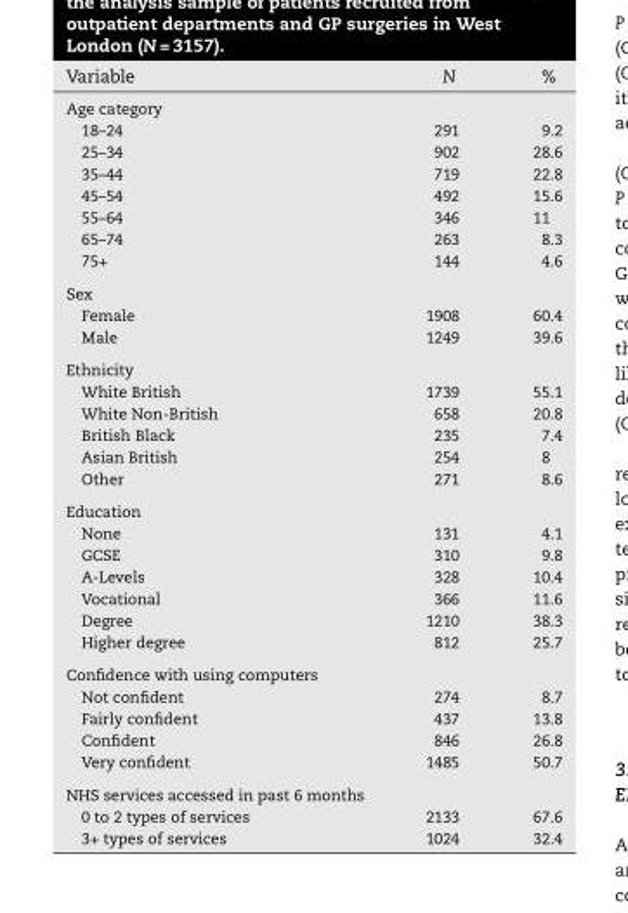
<table><thead><tr><td>Variable</td><td>N</td><td>%</td></tr></thead><tbody><tr><td colspan="3">Age category</td></tr><tr><td>18–24</td><td>291</td><td>9.2</td></tr><tr><td>25–34</td><td>902</td><td>28.6</td></tr><tr><td>35–44</td><td>719</td><td>22.8</td></tr><tr><td>45–54</td><td>492</td><td>15.6</td></tr><tr><td>55–64</td><td>346</td><td>11</td></tr><tr><td>65–74</td><td>263</td><td>8.3</td></tr><tr><td>75+</td><td>144</td><td>4.6</td></tr><tr><td colspan="3">Sex</td></tr><tr><td>Female</td><td>1908</td><td>60.4</td></tr><tr><td>Male</td><td>1249</td><td>39.6</td></tr><tr><td colspan="3">Ethnicity</td></tr><tr><td>White British</td><td>1739</td><td>55.1</td></tr><tr><td>White Non-British</td><td>658</td><td>20.8</td></tr><tr><td>British Black</td><td>235</td><td>7.4</td></tr><tr><td>Asian British</td><td>254</td><td>8</td></tr><tr><td>Other</td><td>271</td><td>8.6</td></tr><tr><td colspan="3">Education</td></tr><tr><td>None</td><td>131</td><td>4.1</td></tr><tr><td>GCSE</td><td>310</td><td>9.8</td></tr><tr><td>A-Levels</td><td>328</td><td>10.4</td></tr><tr><td>Vocational</td><td>366</td><td>11.6</td></tr><tr><td>Degree</td><td>1210</td><td>38.3</td></tr><tr><td>Higher degree</td><td>812</td><td>25.7</td></tr><tr><td colspan="3">Confidence with using computers</td></tr><tr><td>Not confident</td><td>274</td><td>8.7</td></tr><tr><td>Fairly confident</td><td>437</td><td>13.8</td></tr><tr><td>Confident</td><td>846</td><td>26.8</td></tr><tr><td>Very confident</td><td>1485</td><td>50.7</td></tr><tr><td colspan="3">NHS services accessed in past 6 months</td></tr><tr><td>0 to 2 types of services</td><td>2133</td><td>67.6</td></tr><tr><td>3+ types of services</td><td>1024</td><td>32.4</td></tr></tbody></table>